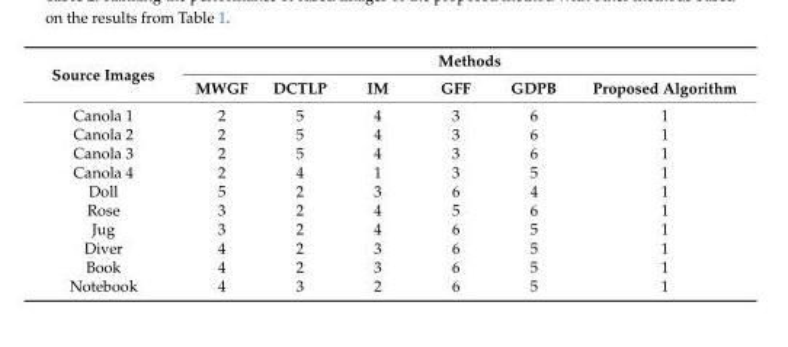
<table><thead><tr><td rowspan="2">Source Images</td><td colspan="6">Methods</td></tr><tr><td>MWGF</td><td>DCTLP</td><td>IM</td><td>GFF</td><td>GDPB</td><td>Proposed Algorithm</td></tr></thead><tbody><tr><td>Canola 1</td><td>2</td><td>5</td><td>4</td><td>3</td><td>6</td><td>1</td></tr><tr><td>Canola 2</td><td>2</td><td>5</td><td>4</td><td>3</td><td>6</td><td>1</td></tr><tr><td>Canola 3</td><td>2</td><td>5</td><td>4</td><td>3</td><td>6</td><td>1</td></tr><tr><td>Canola 4</td><td>2</td><td>4</td><td>1</td><td>3</td><td>5</td><td>1</td></tr><tr><td>Doll</td><td>5</td><td>2</td><td>3</td><td>6</td><td>4</td><td>1</td></tr><tr><td>Rose</td><td>3</td><td>2</td><td>4</td><td>5</td><td>6</td><td>1</td></tr><tr><td>Jug</td><td>3</td><td>2</td><td>4</td><td>6</td><td>5</td><td>1</td></tr><tr><td>Diver</td><td>4</td><td>2</td><td>3</td><td>6</td><td>5</td><td>1</td></tr><tr><td>Book</td><td>4</td><td>2</td><td>3</td><td>6</td><td>5</td><td>1</td></tr><tr><td>Notebook</td><td>4</td><td>3</td><td>2</td><td>6</td><td>5</td><td>1</td></tr></tbody></table>